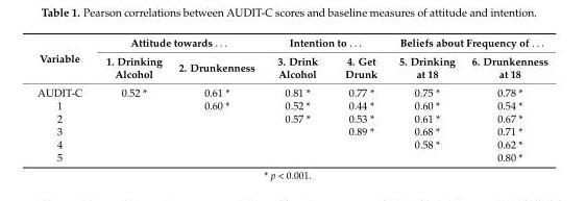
<table><thead><tr><td rowspan="2">Variable</td><td colspan="2">Attitude towards . . .</td><td colspan="2">Intention to . . .</td><td colspan="2">Beliefs about Frequency of . . .</td></tr><tr><td>1. Drinking Alcohol</td><td>2. Drunkenness</td><td>3. Drink Alcohol</td><td>4. Get Drunk</td><td>5. Drinking at 18</td><td>6. Drunkenness at 18</td></tr></thead><tbody><tr><td>AUDIT-C</td><td>0.52 *</td><td>0.61 *</td><td>0.81 *</td><td>0.77 *</td><td>0.75 *</td><td>0.78 *</td></tr><tr><td>1</td><td></td><td>0.60 *</td><td>0.52 *</td><td>0.44 *</td><td>0.60 *</td><td>0.54 *</td></tr><tr><td>2</td><td></td><td></td><td>0.57 *</td><td>0.53 *</td><td>0.61 *</td><td>0.67 *</td></tr><tr><td>3</td><td></td><td></td><td></td><td>0.89 *</td><td>0.68 *</td><td>0.71 *</td></tr><tr><td>4</td><td></td><td></td><td></td><td></td><td>0.58 *</td><td>0.62 *</td></tr><tr><td>5</td><td></td><td></td><td></td><td></td><td></td><td>0.80 *</td></tr></tbody></table>